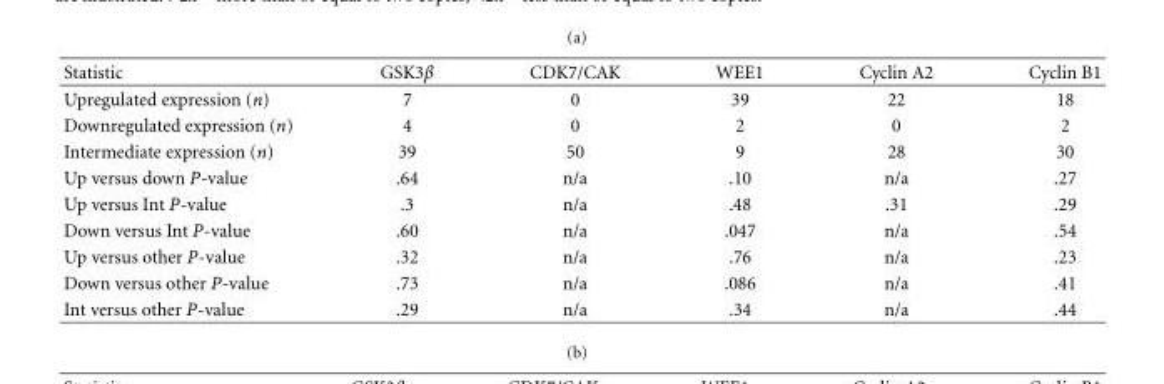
<table><thead><tr><td>Statistic</td><td>GSK3β</td><td>CDK7/CAK</td><td>WEE1</td><td>Cyclin A2</td><td>Cyclin B1</td></tr></thead><tbody><tr><td>Upregulated expression (n)</td><td>7</td><td>0</td><td>39</td><td>22</td><td>18</td></tr><tr><td>Downregulated expression (n)</td><td>4</td><td>0</td><td>2</td><td>0</td><td>2</td></tr><tr><td>Intermediate expression (n)</td><td>39</td><td>50</td><td>9</td><td>28</td><td>30</td></tr><tr><td>Up versus down P-value</td><td>.64</td><td>n/a</td><td>.10</td><td>n/a</td><td>.27</td></tr><tr><td>Up versus Int P-value</td><td>.3</td><td>n/a</td><td>.48</td><td>.31</td><td>.29</td></tr><tr><td>Down versus Int P-value</td><td>.60</td><td>n/a</td><td>.047</td><td>n/a</td><td>.54</td></tr><tr><td>Up versus other P-value</td><td>.32</td><td>n/a</td><td>.76</td><td>n/a</td><td>.23</td></tr><tr><td>Down versus other P-value</td><td>.73</td><td>n/a</td><td>.086</td><td>n/a</td><td>.41</td></tr><tr><td>Int versus other P-value</td><td>.29</td><td>n/a</td><td>.34</td><td>n/a</td><td>.44</td></tr></tbody></table>